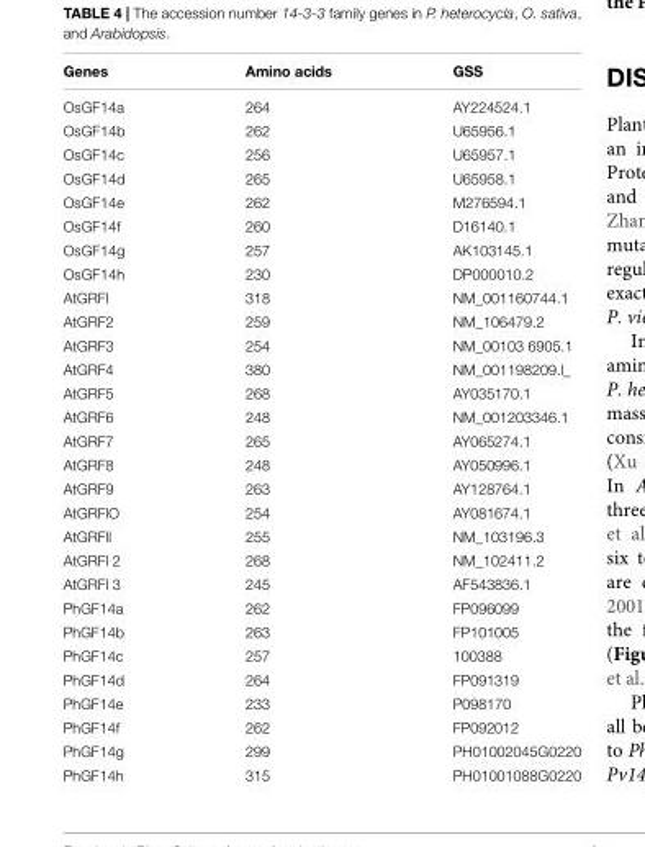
<table><thead><tr><td>Genes</td><td>Amino acids</td><td>GSS</td></tr></thead><tbody><tr><td>OsGF14a</td><td>264</td><td>AY224524.1</td></tr><tr><td>OsGF14b</td><td>262</td><td>U65956.1</td></tr><tr><td>OsGF14c</td><td>256</td><td>U65957.1</td></tr><tr><td>OsGF14d</td><td>265</td><td>U65958.1</td></tr><tr><td>OsGF14e</td><td>262</td><td>M276594.1</td></tr><tr><td>OsGF14f</td><td>260</td><td>D16140.1</td></tr><tr><td>OsGF14g</td><td>257</td><td>AK103145.1</td></tr><tr><td>OsGF14h</td><td>230</td><td>DP000010.2</td></tr><tr><td>AtGRFl</td><td>318</td><td>NM_001160744.1</td></tr><tr><td>AtGRF2</td><td>259</td><td>NM_106479.2</td></tr><tr><td>AtGRF3</td><td>254</td><td>NM_00103 6905.1</td></tr><tr><td>AtGRF4</td><td>380</td><td>NM_001198209.l_</td></tr><tr><td>AtGRF5</td><td>268</td><td>AY035170.1</td></tr><tr><td>AtGRF6</td><td>248</td><td>NM_001203346.1</td></tr><tr><td>AtGRF7</td><td>265</td><td>AY065274.1</td></tr><tr><td>AtGRF8</td><td>248</td><td>AY050996.1</td></tr><tr><td>AtGRF9</td><td>263</td><td>AY128764.1</td></tr><tr><td>AtGRFlO</td><td>254</td><td>AY081674.1</td></tr><tr><td>AtGRFll</td><td>255</td><td>NM_103196.3</td></tr><tr><td>AtGRFl 2</td><td>268</td><td>NM_102411.2</td></tr><tr><td>AtGRFl 3</td><td>245</td><td>AF543836.1</td></tr><tr><td>PhGF14a</td><td>262</td><td>FP096099</td></tr><tr><td>PhGF14b</td><td>263</td><td>FP101005</td></tr><tr><td>PhGF14c</td><td>257</td><td>100388</td></tr><tr><td>PhGF14d</td><td>264</td><td>FP091319</td></tr><tr><td>PhGF14e</td><td>233</td><td>P098170</td></tr><tr><td>PhGF14f</td><td>262</td><td>FP092012</td></tr><tr><td>PhGF14g</td><td>299</td><td>PH01002045G0220</td></tr><tr><td>PhGF14h</td><td>315</td><td>PH01001088G0220</td></tr></tbody></table>